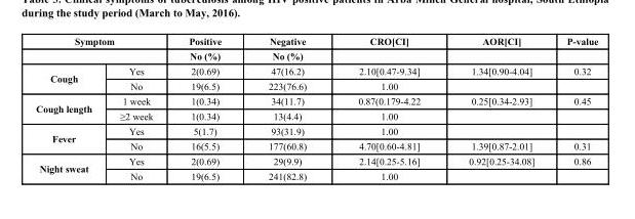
<table><thead><tr><td colspan="2">Symptom</td><td rowspan="2">Positive No (%)</td><td rowspan="2">Negative No (%)</td><td rowspan="2">CRO[CI]</td><td rowspan="2">AOR[CI]</td><td rowspan="2">P-value</td></tr><tr><td></td><td></td></tr></thead><tbody><tr><td rowspan="2">Cough</td><td>Yes</td><td>2(0.69)</td><td>47(16.2)</td><td>2.10[0.47-9.34]</td><td>1.34[0.90-4.04]</td><td>0.32</td></tr><tr><td>No</td><td>19(6.5)</td><td>223(76.6)</td><td>1.00</td><td></td><td></td></tr><tr><td rowspan="2">Cough length</td><td>1 week</td><td>1(0.34)</td><td>34(11.7)</td><td>0.87(0.179-4.22</td><td>0.25[0.34-2.93]</td><td>0.45</td></tr><tr><td>≥2 week</td><td>1(0.34)</td><td>13(4.4)</td><td>1.00</td><td></td><td></td></tr><tr><td rowspan="2">Fever</td><td>Yes</td><td>5(1.7)</td><td>93(31.9)</td><td>1.00</td><td></td><td></td></tr><tr><td>No</td><td>16(5.5)</td><td>177(60.8)</td><td>4.70[0.60-4.81]</td><td>1.39[0.87-2.01]</td><td>0.31</td></tr><tr><td rowspan="2">Night sweat</td><td>Yes</td><td>2(0.69)</td><td>29(9.9)</td><td>2.14[0.25-5.16]</td><td>0.92[0.25-34.08]</td><td>0.86</td></tr><tr><td>No</td><td>19(6.5)</td><td>241(82.8)</td><td>1.00</td><td></td><td></td></tr></tbody></table>